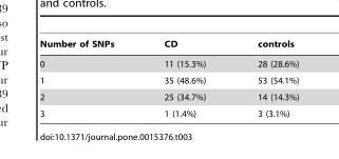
<table><thead><tr><td>Number of SNPs</td><td>CD</td><td>controls</td></tr></thead><tbody><tr><td>0</td><td>11 (15.3%)</td><td>28 (28.6%)</td></tr><tr><td>1</td><td>35 (48.6%)</td><td>53 (54.1%)</td></tr><tr><td>2</td><td>25 (34.7%)</td><td>14 (14.3%)</td></tr><tr><td>3</td><td>1 (1.4%)</td><td>3 (3.1%)</td></tr></tbody></table>